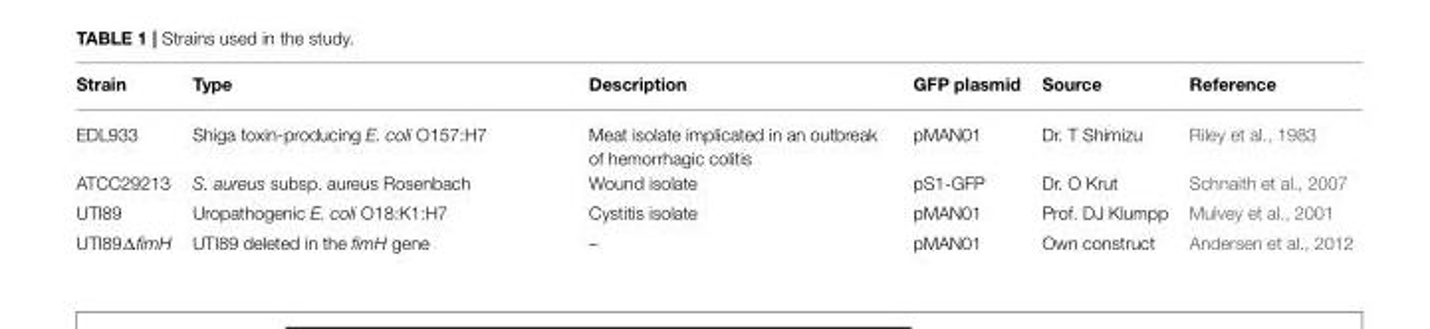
<table><thead><tr><td>Strain</td><td>Type</td><td>Description</td><td>GFP plasmid</td><td>Source</td><td>Reference</td></tr></thead><tbody><tr><td>EDL933</td><td>Shiga toxin-producing E. coli O157:H7</td><td>Meat isolate implicated in an outbreak of hemorrhagic colitis</td><td>pMAN01</td><td>Dr. T Shimizu</td><td>Riley et al., 1983</td></tr><tr><td>ATCC29213</td><td>S. aureus subsp. aureus Rosenbach</td><td>Wound isolate</td><td>pS1-GFP</td><td>Dr. O Krut</td><td>Schnaith et al., 2007</td></tr><tr><td>UTI89</td><td>Uropathogenic E. coli O18:K1:H7</td><td>Cystitis isolate</td><td>pMAN01</td><td>Prof. DJ Klumpp</td><td>Mulvey et al., 2001</td></tr><tr><td>UTI89ΔfimH</td><td>UTI89 deleted in the fimH gene</td><td>–</td><td>pMAN01</td><td>Own construct</td><td>Andersen et al., 2012</td></tr></tbody></table>